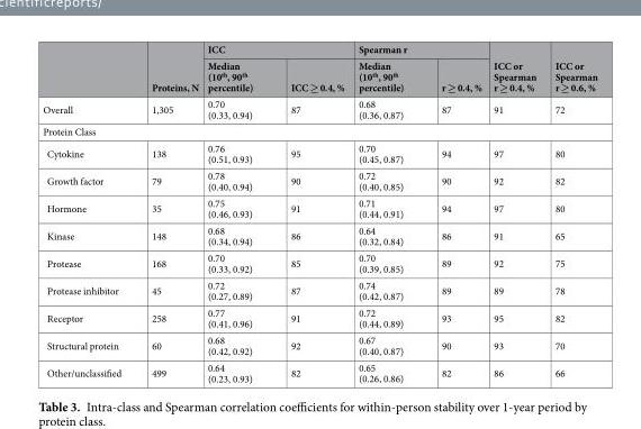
<table><thead><tr><td rowspan="2"></td><td rowspan="2">Proteins, N</td><td colspan="2">ICC</td><td colspan="2">Spearman r</td><td rowspan="2">ICC or Spearman r ≥ 0.4, %</td><td rowspan="2">ICC or Spearman r ≥ 0.6, %</td></tr><tr><td>Median (10<sup>th</sup>, 90<sup>th</sup> percentile)</td><td>ICC ≥ 0.4, %</td><td>Median (10<sup>th</sup>, 90<sup>th</sup> percentile)</td><td>r ≥ 0.4, %</td></tr></thead><tbody><tr><td>Overall</td><td>1,305</td><td>0.70 (0.33, 0.94)</td><td>87</td><td>0.68 (0.36, 0.87)</td><td>87</td><td>91</td><td>72</td></tr><tr><td colspan="8">Protein Class</td></tr><tr><td>Cytokine</td><td>138</td><td>0.76 (0.51, 0.93)</td><td>95</td><td>0.70 (0.45, 0.87)</td><td>94</td><td>97</td><td>80</td></tr><tr><td>Growth factor</td><td>79</td><td>0.78 (0.40, 0.94)</td><td>90</td><td>0.72 (0.40, 0.85)</td><td>90</td><td>92</td><td>82</td></tr><tr><td>Hormone</td><td>35</td><td>0.75 (0.46, 0.93)</td><td>91</td><td>0.71 (0.44, 0.91)</td><td>94</td><td>97</td><td>80</td></tr><tr><td>Kinase</td><td>148</td><td>0.68 (0.34, 0.94)</td><td>86</td><td>0.64 (0.32, 0.84)</td><td>86</td><td>91</td><td>65</td></tr><tr><td>Protease</td><td>168</td><td>0.70 (0.33, 0.92)</td><td>85</td><td>0.70 (0.39, 0.85)</td><td>89</td><td>92</td><td>75</td></tr><tr><td>Protease inhibitor</td><td>45</td><td>0.72 (0.27, 0.89)</td><td>87</td><td>0.74 (0.42, 0.87)</td><td>89</td><td>89</td><td>78</td></tr><tr><td>Receptor</td><td>258</td><td>0.77 (0.41, 0.96)</td><td>91</td><td>0.72 (0.44, 0.89)</td><td>93</td><td>95</td><td>82</td></tr><tr><td>Structural protein</td><td>60</td><td>0.68 (0.42, 0.92)</td><td>92</td><td>0.67 (0.40, 0.87)</td><td>90</td><td>93</td><td>70</td></tr><tr><td>Other/unclassified</td><td>499</td><td>0.64 (0.23, 0.93)</td><td>82</td><td>0.65 (0.26, 0.86)</td><td>82</td><td>86</td><td>66</td></tr></tbody></table>